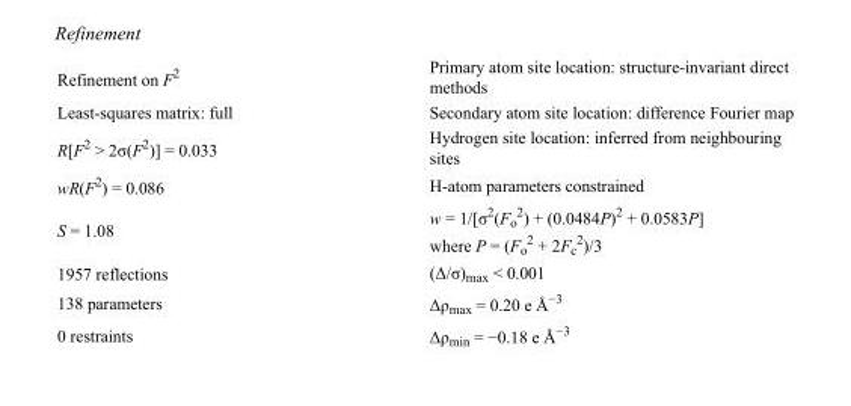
<table><tbody><tr><td>Refinement on F<sup>2</sup></td><td>Primary atom site location: structure-invariant direct methods</td></tr><tr><td>Least-squares matrix: full</td><td>Secondary atom site location: difference Fourier map</td></tr><tr><td>R[F<sup>2</sup> &gt; 2σ(F<sup>2</sup>)] = 0.033</td><td>Hydrogen site location: inferred from neighbouring sites</td></tr><tr><td>wR(F<sup>2</sup>) = 0.086</td><td>H-atom parameters constrained</td></tr><tr><td>S = 1.08</td><td>w = 1/[σ<sup>2</sup>(F<sub>o</sub> <sup>2</sup>) + (0.0484P)<sup>2</sup> + 0.0583P] where P = (F<sub>o</sub> <sup>2</sup> + 2F<sub>c</sub> <sup>2</sup>)/3</td></tr><tr><td>1957 reflections</td><td>(Δ/σ)<sub>max</sub> &lt; 0.001</td></tr><tr><td>138 parameters</td><td>Δρ<sub>max</sub> = 0.20 e Å<sup>−3</sup></td></tr><tr><td>0 restraints</td><td>Δρ<sub>min</sub> = −0.18 e Å<sup>−3</sup></td></tr></tbody></table>